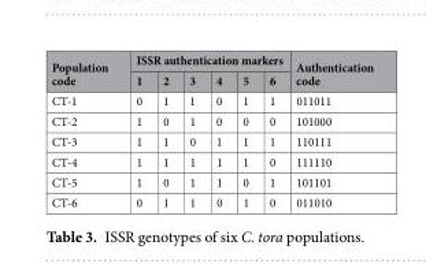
<table><thead><tr><td rowspan="2">Population code</td><td colspan="6">ISSR authentication markers</td><td rowspan="2">Authentication code</td></tr><tr><td>1</td><td>2</td><td>3</td><td>4</td><td>5</td><td>6</td></tr></thead><tbody><tr><td>CT-1</td><td>0</td><td>1</td><td>1</td><td>0</td><td>1</td><td>1</td><td>011011</td></tr><tr><td>CT-2</td><td>1</td><td>0</td><td>1</td><td>0</td><td>0</td><td>0</td><td>101000</td></tr><tr><td>CT-3</td><td>1</td><td>1</td><td>0</td><td>1</td><td>1</td><td>1</td><td>110111</td></tr><tr><td>CT-4</td><td>1</td><td>1</td><td>1</td><td>1</td><td>1</td><td>0</td><td>111110</td></tr><tr><td>CT-5</td><td>1</td><td>0</td><td>1</td><td>1</td><td>0</td><td>1</td><td>101101</td></tr><tr><td>CT-6</td><td>0</td><td>1</td><td>1</td><td>0</td><td>1</td><td>0</td><td>011010</td></tr></tbody></table>